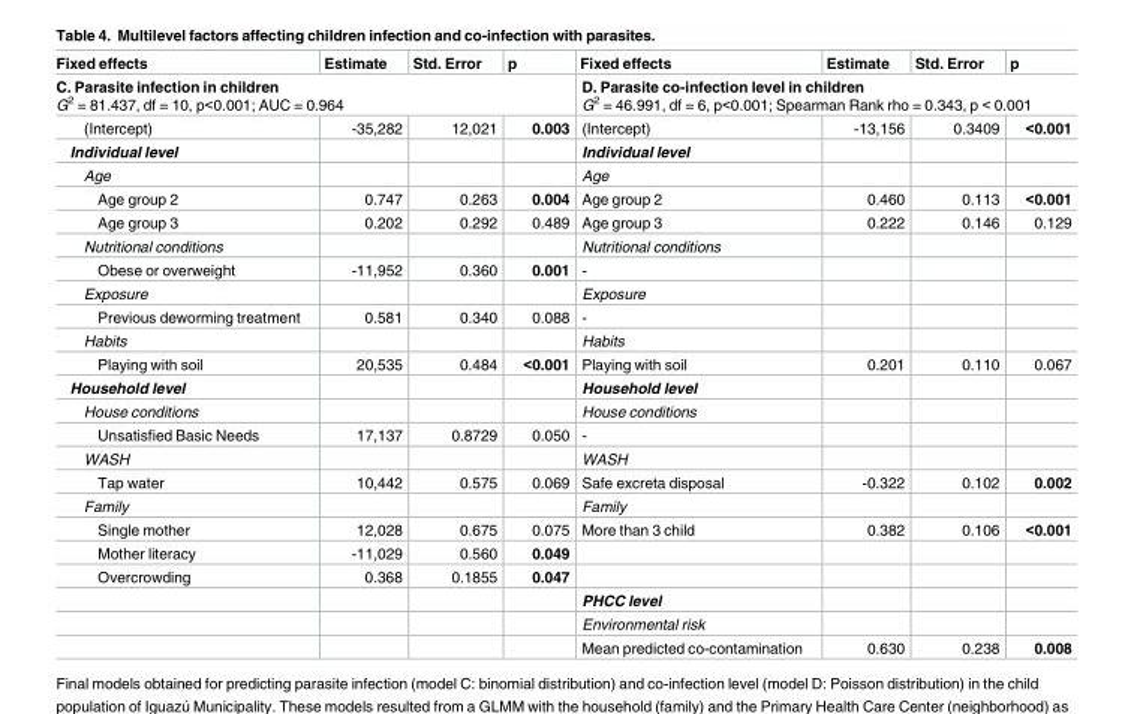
<table><thead><tr><td>Fixed effects</td><td>Estimate</td><td>Std. Error</td><td>p</td><td>Fixed effects</td><td>Estimate</td><td>Std. Error</td><td>p</td></tr></thead><tbody><tr><td colspan="4">C. Parasite infection in children G<sup>2</sup> = 81.437, df = 10, p&lt;0.001; AUC = 0.964</td><td colspan="4">D. Parasite co-infection level in children G<sup>2</sup> = 46.991, df = 6, p&lt;0.001; Spearman Rank rho = 0.343, p &lt; 0.001</td></tr><tr><td>(Intercept)</td><td>-35,282</td><td>12,021</td><td>0.003</td><td>(Intercept)</td><td>-13,156</td><td>0.3409</td><td>&lt;0.001</td></tr><tr><td>Individual level</td><td></td><td></td><td></td><td>Individual level</td><td></td><td></td><td></td></tr><tr><td>Age</td><td></td><td></td><td></td><td>Age</td><td></td><td></td><td></td></tr><tr><td>Age group 2</td><td>0.747</td><td>0.263</td><td>0.004</td><td>Age group 2</td><td>0.460</td><td>0.113</td><td>&lt;0.001</td></tr><tr><td>Age group 3</td><td>0.202</td><td>0.292</td><td>0.489</td><td>Age group 3</td><td>0.222</td><td>0.146</td><td>0.129</td></tr><tr><td>Nutritional conditions</td><td></td><td></td><td></td><td>Nutritional conditions</td><td></td><td></td><td></td></tr><tr><td>Obese or overweight</td><td>-11,952</td><td>0.360</td><td>0.001</td><td>-</td><td></td><td></td><td></td></tr><tr><td>Exposure</td><td></td><td></td><td></td><td>Exposure</td><td></td><td></td><td></td></tr><tr><td>Previous deworming treatment</td><td>0.581</td><td>0.340</td><td>0.088</td><td>-</td><td></td><td></td><td></td></tr><tr><td>Habits</td><td></td><td></td><td></td><td>Habits</td><td></td><td></td><td></td></tr><tr><td>Playing with soil</td><td>20,535</td><td>0.484</td><td>&lt;0.001</td><td>Playing with soil</td><td>0.201</td><td>0.110</td><td>0.067</td></tr><tr><td>Household level</td><td></td><td></td><td></td><td>Household level</td><td></td><td></td><td></td></tr><tr><td>House conditions</td><td></td><td></td><td></td><td>House conditions</td><td></td><td></td><td></td></tr><tr><td>Unsatisfied Basic Needs</td><td>17,137</td><td>0.8729</td><td>0.050</td><td>-</td><td></td><td></td><td></td></tr><tr><td>WASH</td><td></td><td></td><td></td><td>WASH</td><td></td><td></td><td></td></tr><tr><td>Tap water</td><td>10,442</td><td>0.575</td><td>0.069</td><td>Safe excreta disposal</td><td>-0.322</td><td>0.102</td><td>0.002</td></tr><tr><td>Family</td><td></td><td></td><td></td><td>Family</td><td></td><td></td><td></td></tr><tr><td>Single mother</td><td>12,028</td><td>0.675</td><td>0.075</td><td>More than 3 child</td><td>0.382</td><td>0.106</td><td>&lt;0.001</td></tr><tr><td>Mother literacy</td><td>-11,029</td><td>0.560</td><td>0.049</td><td></td><td></td><td></td><td></td></tr><tr><td rowspan="4">Overcrowding</td><td>0.368</td><td>0.1855</td><td>0.047</td><td></td><td></td><td></td><td></td></tr><tr><td></td><td></td><td></td><td>PHCC level</td><td></td><td></td><td></td></tr><tr><td></td><td></td><td></td><td>Environmental risk</td><td></td><td></td><td></td></tr><tr><td></td><td></td><td></td><td>Mean predicted co-contamination</td><td>0.630</td><td>0.238</td><td>0.008</td></tr></tbody></table>